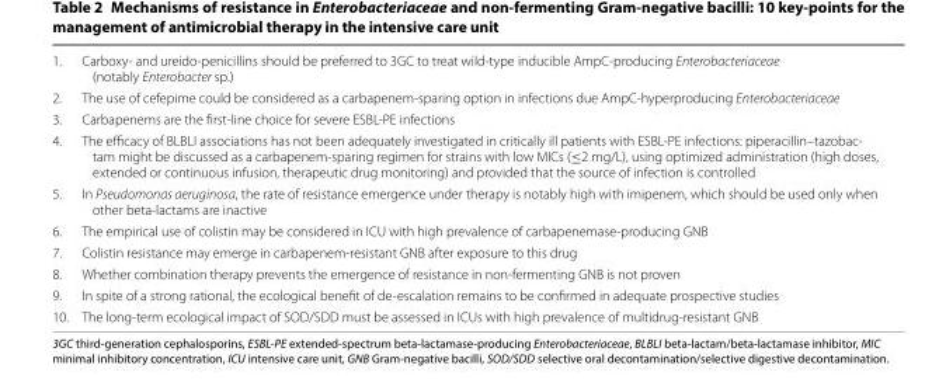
<table><tbody><tr><td>1.</td><td>Carboxy‑ and ureido‑penicillins should be preferred to 3GC to treat wild‑type inducible AmpC‑producing Enterobacteriaceae (notably Enterobacter sp.)</td></tr><tr><td>2.</td><td>The use of cefepime could be considered as a carbapenem‑sparing option in infections due AmpC‑hyperproducing Enterobacteriaceae</td></tr><tr><td>3.</td><td>Carbapenems are the first‑line choice for severe ESBL‑PE infections</td></tr><tr><td>4.</td><td>The efficacy of BLBLI associations has not been adequately investigated in critically ill patients with ESBL‑PE infections: piperacillin–tazobac‑ tam might be discussed as a carbapenem‑sparing regimen for strains with low MICs (≤2 mg/L), using optimized administration (high doses, extended or continuous infusion, therapeutic drug monitoring) and provided that the source of infection is controlled</td></tr><tr><td>5.</td><td>In Pseudomonas aeruginosa, the rate of resistance emergence under therapy is notably high with imipenem, which should be used only when other beta‑lactams are inactive</td></tr><tr><td>6.</td><td>The empirical use of colistin may be considered in ICU with high prevalence of carbapenemase‑producing GNB</td></tr><tr><td>7.</td><td>Colistin resistance may emerge in carbapenem‑resistant GNB after exposure to this drug</td></tr><tr><td>8.</td><td>Whether combination therapy prevents the emergence of resistance in non‑fermenting GNB is not proven</td></tr><tr><td>9.</td><td>In spite of a strong rational, the ecological benefit of de‑escalation remains to be confirmed in adequate prospective studies</td></tr><tr><td>10.</td><td>The long‑term ecological impact of SOD/SDD must be assessed in ICUs with high prevalence of multidrug‑resistant GNB</td></tr></tbody></table>